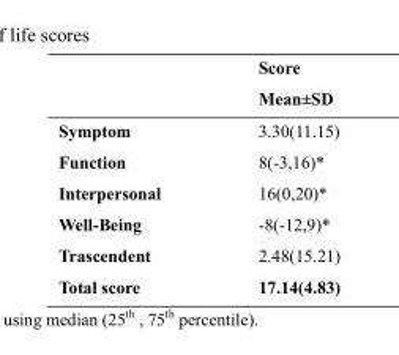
<table><thead><tr><td></td><td>Score Mean±SD</td></tr></thead><tbody><tr><td>Symptom</td><td>3.30(11.15)</td></tr><tr><td>Function</td><td>8(-3,16)*</td></tr><tr><td>Interpersonal</td><td>16(0,20)*</td></tr><tr><td>Well-Being</td><td>-8(-12,9)*</td></tr><tr><td>Trascendent</td><td>2.48(15.21)</td></tr><tr><td>Total score</td><td>17.14(4.83)</td></tr></tbody></table>